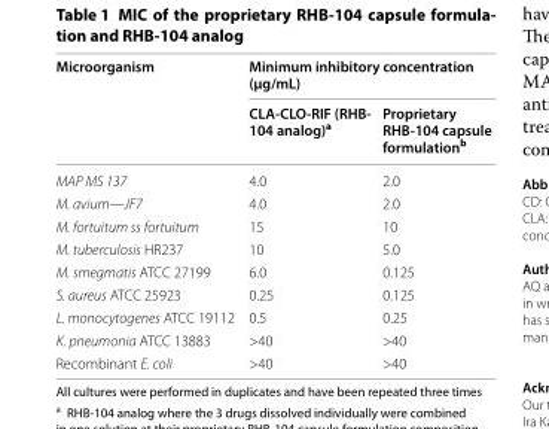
<table><thead><tr><td rowspan="2">Microorganism</td><td colspan="2">Minimum inhibitory concentration (μg/mL)</td></tr><tr><td>CLA-CLO-RIF (RHB- 104 analog)<sup>a</sup></td><td>Proprietary RHB-104 capsule formulation<sup>b</sup></td></tr></thead><tbody><tr><td>MAP MS 137</td><td>4.0</td><td>2.0</td></tr><tr><td>M. avium—JF7</td><td>4.0</td><td>2.0</td></tr><tr><td>M. fortuitum ss fortuitum</td><td>15</td><td>10</td></tr><tr><td>M. tuberculosis HR237</td><td>10</td><td>5.0</td></tr><tr><td>M. smegmatis ATCC 27199</td><td>6.0</td><td>0.125</td></tr><tr><td>S. aureus ATCC 25923</td><td>0.25</td><td>0.125</td></tr><tr><td>L. monocytogenes ATCC 19112</td><td>0.5</td><td>0.25</td></tr><tr><td>K. pneumonia ATCC 13883</td><td>&gt;40</td><td>&gt;40</td></tr><tr><td>Recombinant E. coli</td><td>&gt;40</td><td>&gt;40</td></tr></tbody></table>